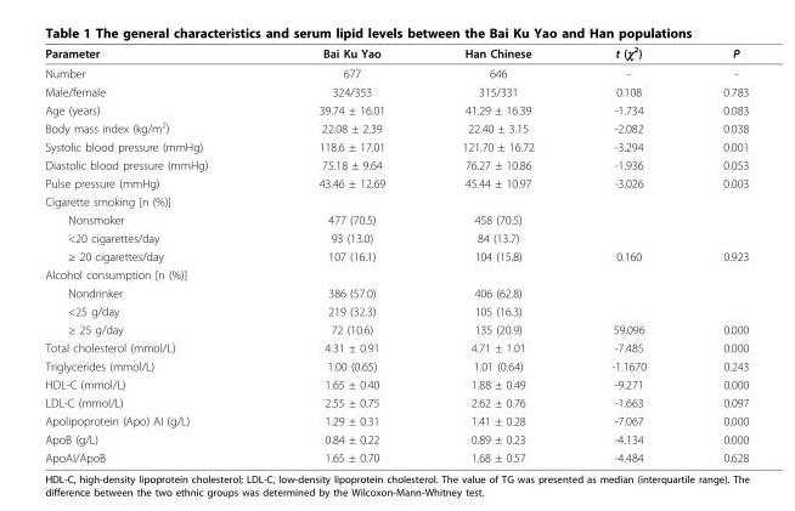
<table><thead><tr><td>Parameter</td><td>Bai Ku Yao</td><td>Han Chinese</td><td>t (χ<sup>2</sup>)</td><td>P</td></tr></thead><tbody><tr><td>Number</td><td>677</td><td>646</td><td>-</td><td>-</td></tr><tr><td>Male/female</td><td>324/353</td><td>315/331</td><td>0.108</td><td>0.783</td></tr><tr><td>Age (years)</td><td>39.74 ± 16.01</td><td>41.29 ± 16.39</td><td>-1.734</td><td>0.083</td></tr><tr><td>Body mass index (kg/m<sup>2</sup>)</td><td>22.08 ± 2.39</td><td>22.40 ± 3.15</td><td>-2.082</td><td>0.038</td></tr><tr><td>Systolic blood pressure (mmHg)</td><td>118.6 ± 17.01</td><td>121.70 ± 16.72</td><td>-3.294</td><td>0.001</td></tr><tr><td>Diastolic blood pressure (mmHg)</td><td>75.18 ± 9.64</td><td>76.27 ± 10.86</td><td>-1.936</td><td>0.053</td></tr><tr><td>Pulse pressure (mmHg)</td><td>43.46 ± 12.69</td><td>45.44 ± 10.97</td><td>-3.026</td><td>0.003</td></tr><tr><td colspan="5">Cigarette smoking [n (%)]</td></tr><tr><td>Nonsmoker</td><td>477 (70.5)</td><td>458 (70.5)</td><td></td><td></td></tr><tr><td>&lt;20 cigarettes/day</td><td>93 (13.0)</td><td>84 (13.7)</td><td></td><td></td></tr><tr><td>≥ 20 cigarettes/day</td><td>107 (16.1)</td><td>104 (15.8)</td><td>0.160</td><td>0.923</td></tr><tr><td colspan="5">Alcohol consumption [n (%)]</td></tr><tr><td>Nondrinker</td><td>386 (57.0)</td><td>406 (62.8)</td><td></td><td></td></tr><tr><td>&lt;25 g/day</td><td>219 (32.3)</td><td>105 (16.3)</td><td></td><td></td></tr><tr><td>≥ 25 g/day</td><td>72 (10.6)</td><td>135 (20.9)</td><td>59.096</td><td>0.000</td></tr><tr><td>Total cholesterol (mmol/L)</td><td>4.31 ± 0.91</td><td>4.71 ± 1.01</td><td>-7.485</td><td>0.000</td></tr><tr><td>Triglycerides (mmol/L)</td><td>1.00 (0.65)</td><td>1.01 (0.64)</td><td>-1.1670</td><td>0.243</td></tr><tr><td>HDL-C (mmol/L)</td><td>1.65 ± 0.40</td><td>1.88 ± 0.49</td><td>-9.271</td><td>0.000</td></tr><tr><td>LDL-C (mmol/L)</td><td>2.55 ± 0.75</td><td>2.62 ± 0.76</td><td>-1.663</td><td>0.097</td></tr><tr><td>Apolipoprotein (Apo) AI (g/L)</td><td>1.29 ± 0.31</td><td>1.41 ± 0.28</td><td>-7.067</td><td>0.000</td></tr><tr><td>ApoB (g/L)</td><td>0.84 ± 0.22</td><td>0.89 ± 0.23</td><td>-4.134</td><td>0.000</td></tr><tr><td>ApoAI/ApoB</td><td>1.65 ± 0.70</td><td>1.68 ± 0.57</td><td>-4.484</td><td>0.628</td></tr></tbody></table>